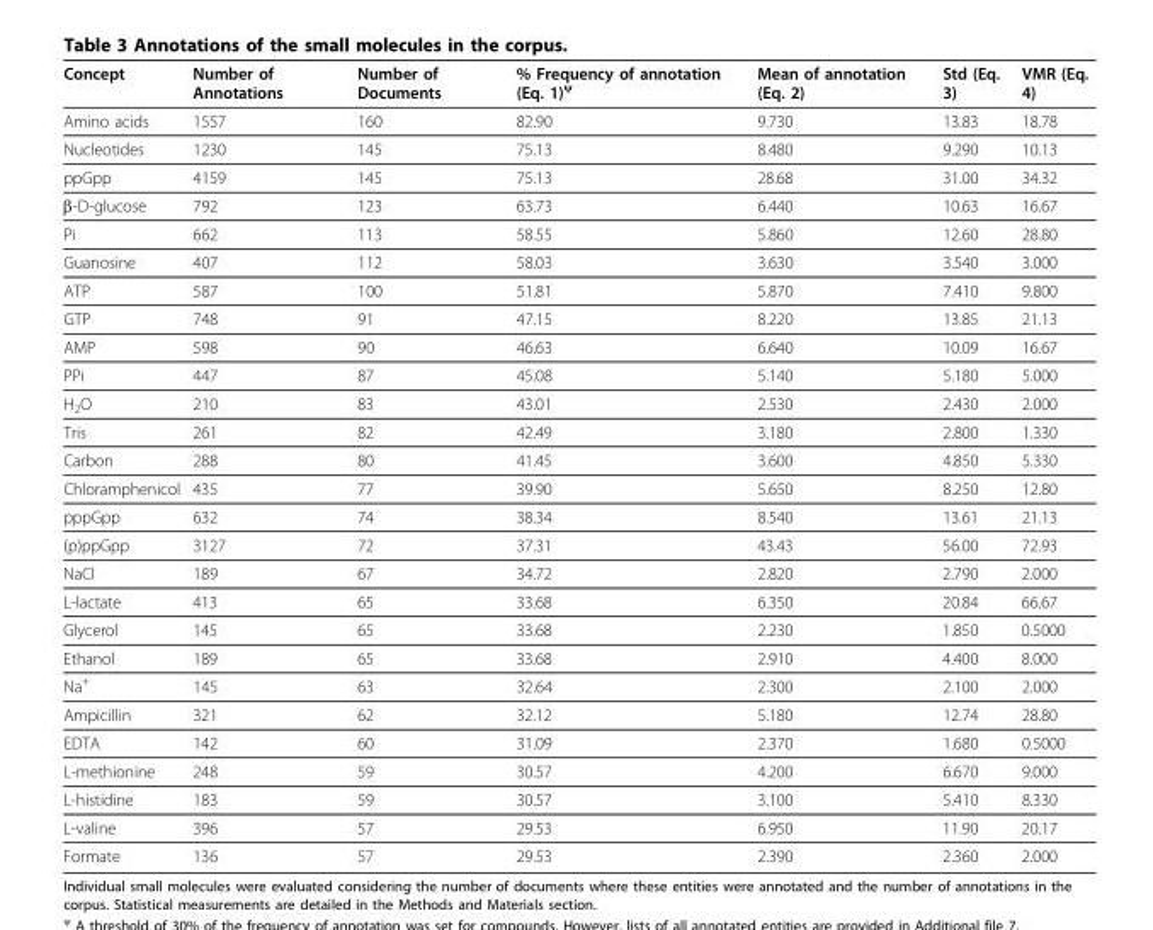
<table><thead><tr><td>Concept</td><td>Number of Annotations</td><td>Number of Documents</td><td>% Frequency of annotation (Eq. 1)ψ</td><td>Mean of annotation (Eq. 2)</td><td>Std (Eq. 3)</td><td>VMR (Eq. 4)</td></tr></thead><tbody><tr><td>Amino acids</td><td>1557</td><td>160</td><td>82.90</td><td>9.730</td><td>13.83</td><td>18.78</td></tr><tr><td>Nucleotides</td><td>1230</td><td>145</td><td>75.13</td><td>8.480</td><td>9.290</td><td>10.13</td></tr><tr><td>ppGpp</td><td>4159</td><td>145</td><td>75.13</td><td>28.68</td><td>31.00</td><td>34.32</td></tr><tr><td>β-D-glucose</td><td>792</td><td>123</td><td>63.73</td><td>6.440</td><td>10.63</td><td>16.67</td></tr><tr><td>Pi</td><td>662</td><td>113</td><td>58.55</td><td>5.860</td><td>12.60</td><td>28.80</td></tr><tr><td>Guanosine</td><td>407</td><td>112</td><td>58.03</td><td>3.630</td><td>3.540</td><td>3.000</td></tr><tr><td>ATP</td><td>587</td><td>100</td><td>51.81</td><td>5.870</td><td>7.410</td><td>9.800</td></tr><tr><td>GTP</td><td>748</td><td>91</td><td>47.15</td><td>8.220</td><td>13.85</td><td>21.13</td></tr><tr><td>AMP</td><td>598</td><td>90</td><td>46.63</td><td>6.640</td><td>10.09</td><td>16.67</td></tr><tr><td>PPi</td><td>447</td><td>87</td><td>45.08</td><td>5.140</td><td>5.180</td><td>5.000</td></tr><tr><td>H2O</td><td>210</td><td>83</td><td>43.01</td><td>2.530</td><td>2.430</td><td>2.000</td></tr><tr><td>Tris</td><td>261</td><td>82</td><td>42.49</td><td>3.180</td><td>2.800</td><td>1.330</td></tr><tr><td>Carbon</td><td>288</td><td>80</td><td>41.45</td><td>3.600</td><td>4.850</td><td>5.330</td></tr><tr><td>Chloramphenicol</td><td>435</td><td>77</td><td>39.90</td><td>5.650</td><td>8.250</td><td>12.80</td></tr><tr><td>pppGpp</td><td>632</td><td>74</td><td>38.34</td><td>8.540</td><td>13.61</td><td>21.13</td></tr><tr><td>(p)ppGpp</td><td>3127</td><td>72</td><td>37.31</td><td>43.43</td><td>56.00</td><td>72.93</td></tr><tr><td>NaCl</td><td>189</td><td>67</td><td>34.72</td><td>2.820</td><td>2.790</td><td>2.000</td></tr><tr><td>L-lactate</td><td>413</td><td>65</td><td>33.68</td><td>6.350</td><td>20.84</td><td>66.67</td></tr><tr><td>Glycerol</td><td>145</td><td>65</td><td>33.68</td><td>2.230</td><td>1.850</td><td>0.5000</td></tr><tr><td>Ethanol</td><td>189</td><td>65</td><td>33.68</td><td>2.910</td><td>4.400</td><td>8.000</td></tr><tr><td>Na+</td><td>145</td><td>63</td><td>32.64</td><td>2.300</td><td>2.100</td><td>2.000</td></tr><tr><td>Ampicillin</td><td>321</td><td>62</td><td>32.12</td><td>5.180</td><td>12.74</td><td>28.80</td></tr><tr><td>EDTA</td><td>142</td><td>60</td><td>31.09</td><td>2.370</td><td>1.680</td><td>0.5000</td></tr><tr><td>L-methionine</td><td>248</td><td>59</td><td>30.57</td><td>4.200</td><td>6.670</td><td>9.000</td></tr><tr><td>L-histidine</td><td>183</td><td>59</td><td>30.57</td><td>3.100</td><td>5.410</td><td>8.330</td></tr><tr><td>L-valine</td><td>396</td><td>57</td><td>29.53</td><td>6.950</td><td>11.90</td><td>20.17</td></tr><tr><td>Formate</td><td>136</td><td>57</td><td>29.53</td><td>2.390</td><td>2.360</td><td>2.000</td></tr></tbody></table>